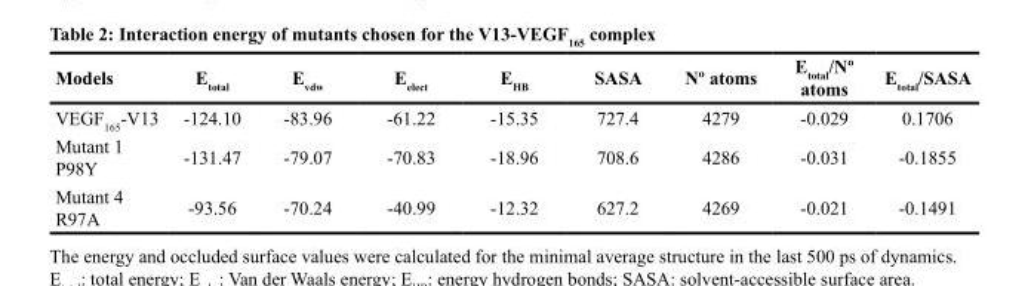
<table><thead><tr><td>Models</td><td>E<sub>total</sub></td><td>E<sub>vdw</sub></td><td>E<sub>elect</sub></td><td>E<sub>HB</sub></td><td>SASA</td><td>Nº atoms</td><td>Etotal/Nº atoms</td><td>E<sub>total</sub>/SASA</td></tr></thead><tbody><tr><td>VEGF<sub>165</sub>-V13</td><td>-124.10</td><td>-83.96</td><td>-61.22</td><td>-15.35</td><td>727.4</td><td>4279</td><td>-0.029</td><td>0.1706</td></tr><tr><td>Mutant 1 P98Y</td><td>-131.47</td><td>-79.07</td><td>-70.83</td><td>-18.96</td><td>708.6</td><td>4286</td><td>-0.031</td><td>-0.1855</td></tr><tr><td>Mutant 4 R97A</td><td>-93.56</td><td>-70.24</td><td>-40.99</td><td>-12.32</td><td>627.2</td><td>4269</td><td>-0.021</td><td>-0.1491</td></tr></tbody></table>